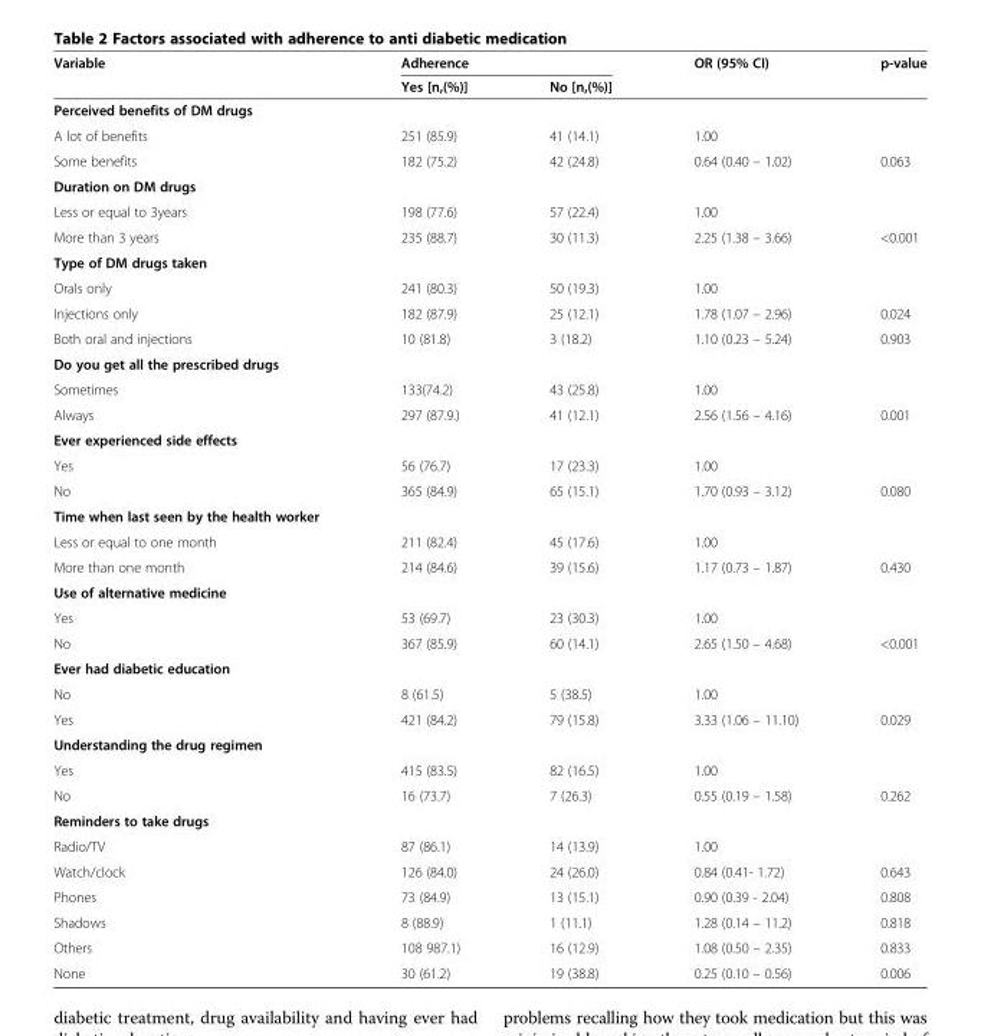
<table><thead><tr><td rowspan="2">Variable</td><td colspan="2">Adherence</td><td rowspan="2">OR (95% CI)</td><td rowspan="2">p-value</td></tr><tr><td>Yes [n,(%)]</td><td>No [n,(%)]</td></tr></thead><tbody><tr><td colspan="5">Perceived benefits of DM drugs</td></tr><tr><td>A lot of benefits</td><td>251 (85.9)</td><td>41 (14.1)</td><td>1.00</td><td></td></tr><tr><td>Some benefits</td><td>182 (75.2)</td><td>42 (24.8)</td><td>0.64 (0.40 – 1.02)</td><td>0.063</td></tr><tr><td colspan="5">Duration on DM drugs</td></tr><tr><td>Less or equal to 3years</td><td>198 (77.6)</td><td>57 (22.4)</td><td>1.00</td><td></td></tr><tr><td>More than 3 years</td><td>235 (88.7)</td><td>30 (11.3)</td><td>2.25 (1.38 – 3.66)</td><td>&lt;0.001</td></tr><tr><td colspan="5">Type of DM drugs taken</td></tr><tr><td>Orals only</td><td>241 (80.3)</td><td>50 (19.3)</td><td>1.00</td><td></td></tr><tr><td>Injections only</td><td>182 (87.9)</td><td>25 (12.1)</td><td>1.78 (1.07 – 2.96)</td><td>0.024</td></tr><tr><td>Both oral and injections</td><td>10 (81.8)</td><td>3 (18.2)</td><td>1.10 (0.23 – 5.24)</td><td>0.903</td></tr><tr><td colspan="5">Do you get all the prescribed drugs</td></tr><tr><td>Sometimes</td><td>133(74.2)</td><td>43 (25.8)</td><td>1.00</td><td></td></tr><tr><td>Always</td><td>297 (87.9.)</td><td>41 (12.1)</td><td>2.56 (1.56 – 4.16)</td><td>0.001</td></tr><tr><td colspan="5">Ever experienced side effects</td></tr><tr><td>Yes</td><td>56 (76.7)</td><td>17 (23.3)</td><td>1.00</td><td></td></tr><tr><td>No</td><td>365 (84.9)</td><td>65 (15.1)</td><td>1.70 (0.93 – 3.12)</td><td>0.080</td></tr><tr><td colspan="5">Time when last seen by the health worker</td></tr><tr><td>Less or equal to one month</td><td>211 (82.4)</td><td>45 (17.6)</td><td>1.00</td><td></td></tr><tr><td>More than one month</td><td>214 (84.6)</td><td>39 (15.6)</td><td>1.17 (0.73 – 1.87)</td><td>0.430</td></tr><tr><td colspan="5">Use of alternative medicine</td></tr><tr><td>Yes</td><td>53 (69.7)</td><td>23 (30.3)</td><td>1.00</td><td></td></tr><tr><td>No</td><td>367 (85.9)</td><td>60 (14.1)</td><td>2.65 (1.50 – 4.68)</td><td>&lt;0.001</td></tr><tr><td colspan="5">Ever had diabetic education</td></tr><tr><td>No</td><td>8 (61.5)</td><td>5 (38.5)</td><td>1.00</td><td></td></tr><tr><td>Yes</td><td>421 (84.2)</td><td>79 (15.8)</td><td>3.33 (1.06 – 11.10)</td><td>0.029</td></tr><tr><td colspan="5">Understanding the drug regimen</td></tr><tr><td>Yes</td><td>415 (83.5)</td><td>82 (16.5)</td><td>1.00</td><td></td></tr><tr><td>No</td><td>16 (73.7)</td><td>7 (26.3)</td><td>0.55 (0.19 – 1.58)</td><td>0.262</td></tr><tr><td colspan="5">Reminders to take drugs</td></tr><tr><td>Radio/TV</td><td>87 (86.1)</td><td>14 (13.9)</td><td>1.00</td><td></td></tr><tr><td>Watch/clock</td><td>126 (84.0)</td><td>24 (26.0)</td><td>0.84 (0.41- 1.72)</td><td>0.643</td></tr><tr><td>Phones</td><td>73 (84.9)</td><td>13 (15.1)</td><td>0.90 (0.39 - 2.04)</td><td>0.808</td></tr><tr><td>Shadows</td><td>8 (88.9)</td><td>1 (11.1)</td><td>1.28 (0.14 – 11.2)</td><td>0.818</td></tr><tr><td>Others</td><td>108 987.1)</td><td>16 (12.9)</td><td>1.08 (0.50 – 2.35)</td><td>0.833</td></tr><tr><td>None</td><td>30 (61.2)</td><td>19 (38.8)</td><td>0.25 (0.10 – 0.56)</td><td>0.006</td></tr></tbody></table>